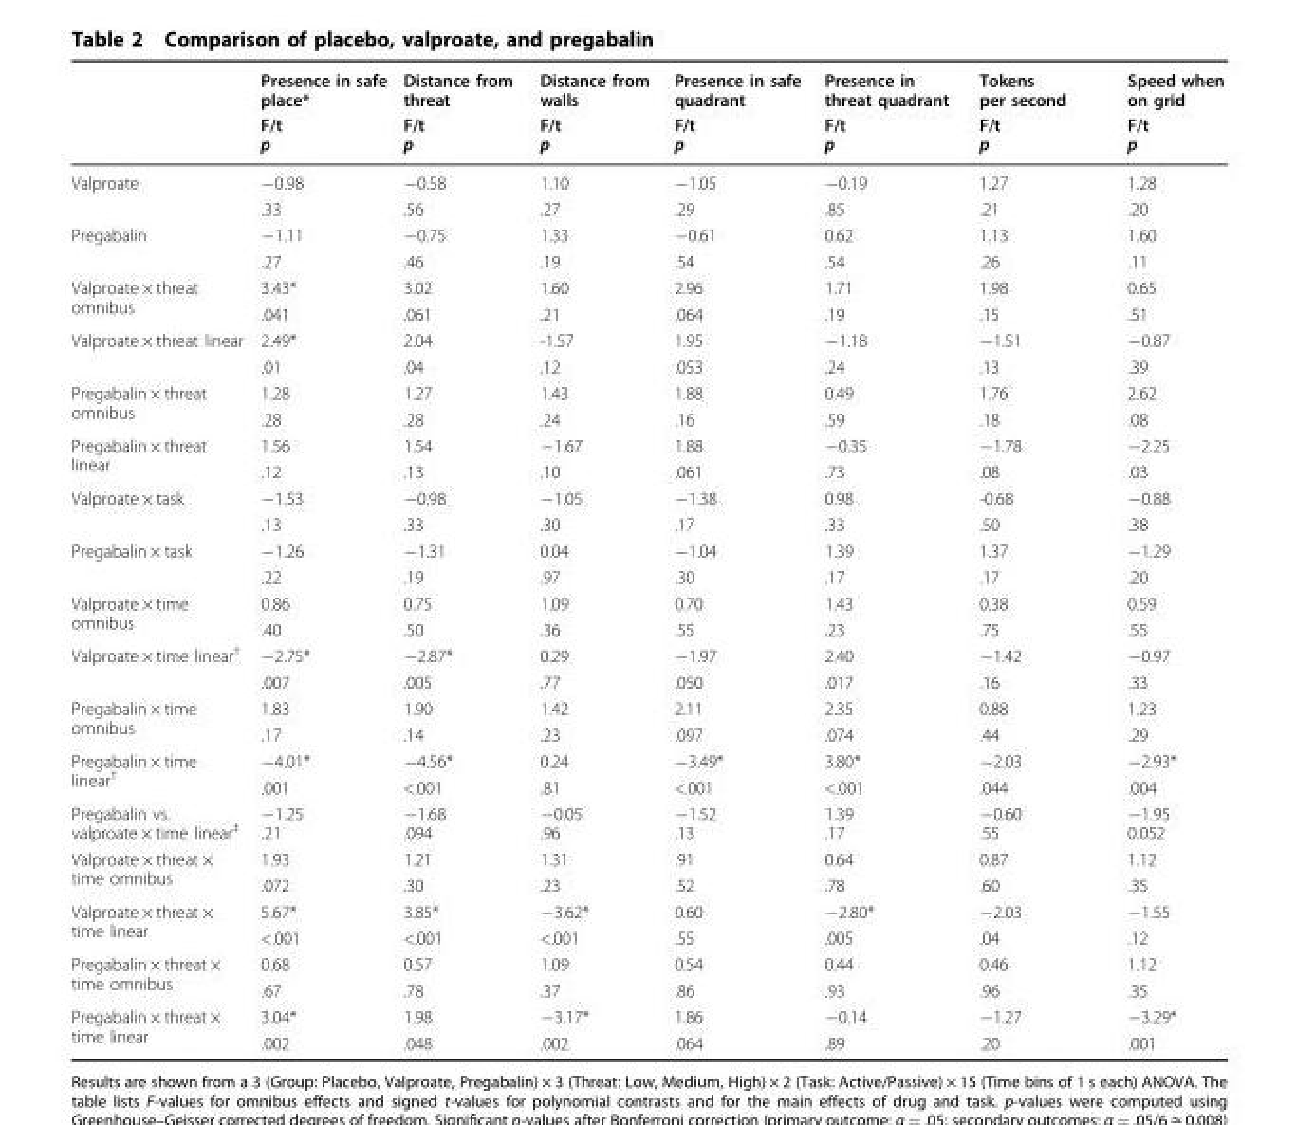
<table><thead><tr><td rowspan="2"></td><td rowspan="2">Presence in safe place* F/t p</td><td rowspan="2">Distance from threat F/t p</td><td rowspan="2">Distance from walls F/t p</td><td rowspan="2">Presence in safe quadrant F/t p</td><td rowspan="2">Presence in threat quadrant F/t p</td><td rowspan="2">Tokens per second F/t p</td><td rowspan="2">Speed when on grid F/t p</td></tr><tr></tr></thead><tbody><tr><td rowspan="2">Valproate</td><td>−0.98</td><td>−0.58</td><td>1.10</td><td>−1.05</td><td>−0.19</td><td>1.27</td><td>1.28</td></tr><tr><td>.33</td><td>.56</td><td>.27</td><td>.29</td><td>.85</td><td>.21</td><td>.20</td></tr><tr><td rowspan="2">Pregabalin</td><td>−1.11</td><td>−0.75</td><td>1.33</td><td>−0.61</td><td>0.62</td><td>1.13</td><td>1.60</td></tr><tr><td>.27</td><td>.46</td><td>.19</td><td>.54</td><td>.54</td><td>.26</td><td>.11</td></tr><tr><td rowspan="2">Valproate × threat omnibus</td><td>3.43*</td><td>3.02</td><td>1.60</td><td>2.96</td><td>1.71</td><td>1.98</td><td>0.65</td></tr><tr><td>.041</td><td>.061</td><td>.21</td><td>.064</td><td>.19</td><td>.15</td><td>.51</td></tr><tr><td rowspan="2">Valproate × threat linear</td><td>2.49*</td><td>2.04</td><td>-1.57</td><td>1.95</td><td>−1.18</td><td>−1.51</td><td>−0.87</td></tr><tr><td>.01</td><td>.04</td><td>.12</td><td>.053</td><td>.24</td><td>.13</td><td>.39</td></tr><tr><td rowspan="2">Pregabalin × threat omnibus</td><td>1.28</td><td>1.27</td><td>1.43</td><td>1.88</td><td>0.49</td><td>1.76</td><td>2.62</td></tr><tr><td>.28</td><td>.28</td><td>.24</td><td>.16</td><td>.59</td><td>.18</td><td>.08</td></tr><tr><td rowspan="2">Pregabalin × threat linear</td><td>1.56</td><td>1.54</td><td>−1.67</td><td>1.88</td><td>−0.35</td><td>−1.78</td><td>−2.25</td></tr><tr><td>.12</td><td>.13</td><td>.10</td><td>.061</td><td>.73</td><td>.08</td><td>.03</td></tr><tr><td rowspan="2">Valproate × task</td><td>−1.53</td><td>−0.98</td><td>−1.05</td><td>−1.38</td><td>0.98</td><td>-0.68</td><td>−0.88</td></tr><tr><td>.13</td><td>.33</td><td>.30</td><td>.17</td><td>.33</td><td>.50</td><td>.38</td></tr><tr><td rowspan="2">Pregabalin × task</td><td>−1.26</td><td>−1.31</td><td>0.04</td><td>−1.04</td><td>1.39</td><td>1.37</td><td>−1.29</td></tr><tr><td>.22</td><td>.19</td><td>.97</td><td>.30</td><td>.17</td><td>.17</td><td>.20</td></tr><tr><td rowspan="2">Valproate × time omnibus</td><td>0.86</td><td>0.75</td><td>1.09</td><td>0.70</td><td>1.43</td><td>0.38</td><td>0.59</td></tr><tr><td>.40</td><td>.50</td><td>.36</td><td>.55</td><td>.23</td><td>.75</td><td>.55</td></tr><tr><td rowspan="2">Valproate × time linear<sup>†</sup></td><td>−2.75*</td><td>−2.87*</td><td>0.29</td><td>−1.97</td><td>2.40</td><td>−1.42</td><td>−0.97</td></tr><tr><td>.007</td><td>.005</td><td>.77</td><td>.050</td><td>.017</td><td>.16</td><td>.33</td></tr><tr><td rowspan="2">Pregabalin × time omnibus</td><td>1.83</td><td>1.90</td><td>1.42</td><td>2.11</td><td>2.35</td><td>0.88</td><td>1.23</td></tr><tr><td>.17</td><td>.14</td><td>.23</td><td>.097</td><td>.074</td><td>.44</td><td>.29</td></tr><tr><td rowspan="2">Pregabalin × time linear<sup>†</sup></td><td>−4.01*</td><td>−4.56*</td><td>0.24</td><td>−3.49*</td><td>3.80*</td><td>−2.03</td><td>−2.93*</td></tr><tr><td>.001</td><td>&lt;.001</td><td>.81</td><td>&lt;.001</td><td>&lt;.001</td><td>.044</td><td>.004</td></tr><tr><td>Pregabalin vs. valproate × time linear<sup>‡</sup></td><td>−1.25 .21</td><td>−1.68 .094</td><td>−0.05 .96</td><td>−1.52 .13</td><td>1.39 .17</td><td>−0.60 .55</td><td>−1.95 0.052</td></tr><tr><td rowspan="2">Valproate × threat × time omnibus</td><td>1.93</td><td>1.21</td><td>1.31</td><td>.91</td><td>0.64</td><td>0.87</td><td>1.12</td></tr><tr><td>.072</td><td>.30</td><td>.23</td><td>.52</td><td>.78</td><td>.60</td><td>.35</td></tr><tr><td rowspan="2">Valproate × threat × time linear</td><td>5.67*</td><td>3.85*</td><td>−3.62*</td><td>0.60</td><td>−2.80*</td><td>−2.03</td><td>−1.55</td></tr><tr><td>&lt;.001</td><td>&lt;.001</td><td>&lt;.001</td><td>.55</td><td>.005</td><td>.04</td><td>.12</td></tr><tr><td rowspan="2">Pregabalin × threat × time omnibus</td><td>0.68</td><td>0.57</td><td>1.09</td><td>0.54</td><td>0.44</td><td>0.46</td><td>1.12</td></tr><tr><td>.67</td><td>.78</td><td>.37</td><td>.86</td><td>.93</td><td>.96</td><td>.35</td></tr><tr><td rowspan="2">Pregabalin × threat × time linear</td><td>3.04*</td><td>1.98</td><td>−3.17*</td><td>1.86</td><td>−0.14</td><td>−1.27</td><td>−3.29*</td></tr><tr><td>.002</td><td>.048</td><td>.002</td><td>.064</td><td>.89</td><td>.20</td><td>.001</td></tr></tbody></table>